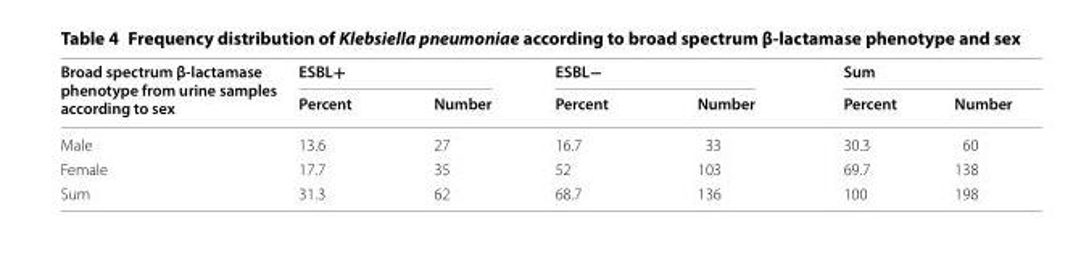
<table><thead><tr><td rowspan="2">Broad spectrum β‑lactamase phenotype from urine samples according to sex</td><td colspan="2">ESBL+</td><td colspan="2">ESBL−</td><td colspan="2">Sum</td></tr><tr><td>Percent</td><td>Number</td><td>Percent</td><td>Number</td><td>Percent</td><td>Number</td></tr></thead><tbody><tr><td>Male</td><td>13.6</td><td>27</td><td>16.7</td><td>33</td><td>30.3</td><td>60</td></tr><tr><td>Female</td><td>17.7</td><td>35</td><td>52</td><td>103</td><td>69.7</td><td>138</td></tr><tr><td>Sum</td><td>31.3</td><td>62</td><td>68.7</td><td>136</td><td>100</td><td>198</td></tr></tbody></table>